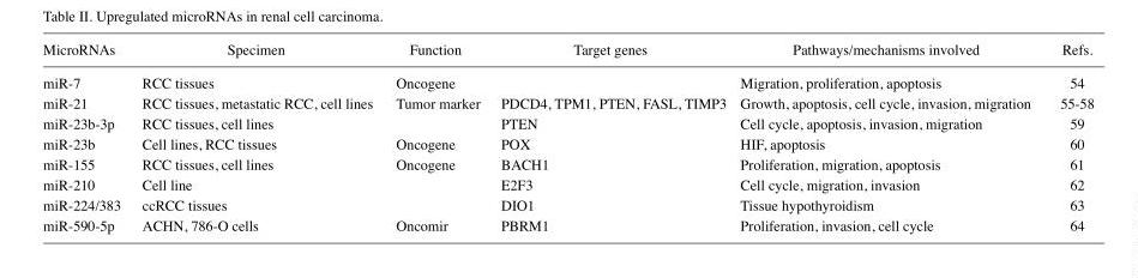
<table><thead><tr><td>MicroRNAs</td><td>Specimen</td><td>Function</td><td>Target genes</td><td>Pathways/mechanisms involved</td><td>Refs.</td></tr></thead><tbody><tr><td>miR-7</td><td>RCC tissues</td><td>Oncogene</td><td></td><td>Migration, proliferation, apoptosis</td><td>54</td></tr><tr><td>miR-21</td><td>RCC tissues, metastatic RCC, cell lines</td><td>Tumor marker</td><td>PDCD4, TPM1, PTEN, FASL, TIMP3</td><td>Growth, apoptosis, cell cycle, invasion, migration</td><td>55-58</td></tr><tr><td>miR-23b-3p</td><td>RCC tissues, cell lines</td><td></td><td>PTEN</td><td>Cell cycle, apoptosis, invasion, migration</td><td>59</td></tr><tr><td>miR-23b</td><td>Cell lines, RCC tissues</td><td>Oncogene</td><td>POX</td><td>HIF, apoptosis</td><td>60</td></tr><tr><td>miR-155</td><td>RCC tissues, cell lines</td><td>Oncogene</td><td>BACH1</td><td>Proliferation, migration, apoptosis</td><td>61</td></tr><tr><td>miR-210</td><td>Cell line</td><td></td><td>E2F3</td><td>Cell cycle, migration, invasion</td><td>62</td></tr><tr><td>miR-224/383</td><td>ccRCC tissues</td><td></td><td>DIO1</td><td>Tissue hypothyroidism</td><td>63</td></tr><tr><td>miR-590-5p</td><td>ACHN, 786-O cells</td><td>Oncomir</td><td>PBRM1</td><td>Proliferation, invasion, cell cycle</td><td>64</td></tr></tbody></table>